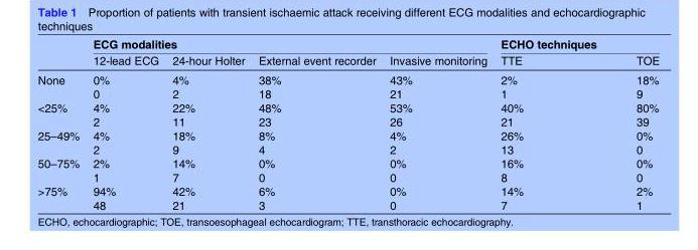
<table><thead><tr><td rowspan="2"></td><td colspan="4">ECG modalities</td><td colspan="2">ECHO techniques</td></tr><tr><td>12-lead ECG</td><td>24-hour Holter</td><td>External event recorder</td><td>Invasive monitoring</td><td>TTE</td><td>TOE</td></tr></thead><tbody><tr><td>None</td><td>0% 0</td><td>4% 2</td><td>38% 18</td><td>43% 21</td><td>2% 1</td><td>18% 9</td></tr><tr><td>&lt;25%</td><td>4% 2</td><td>22% 11</td><td>48% 23</td><td>53% 26</td><td>40% 21</td><td>80% 39</td></tr><tr><td>25–49%</td><td>4% 2</td><td>18% 9</td><td>8% 4</td><td>4% 2</td><td>26% 13</td><td>0% 0</td></tr><tr><td>50–75%</td><td>2% 1</td><td>14% 7</td><td>0% 0</td><td>0% 0</td><td>16% 8</td><td>0% 0</td></tr><tr><td>&gt;75%</td><td>94% 48</td><td>42% 21</td><td>6% 3</td><td>0% 0</td><td>14% 7</td><td>2% 1</td></tr></tbody></table>